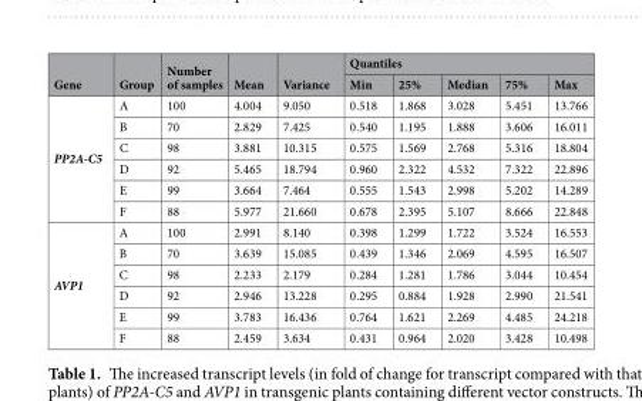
<table><thead><tr><td rowspan="2">Gene</td><td rowspan="2">Group</td><td rowspan="2">Number of samples</td><td rowspan="2">Mean</td><td rowspan="2">Variance</td><td colspan="5">Quantiles</td></tr><tr><td>Min</td><td>25%</td><td>Median</td><td>75%</td><td>Max</td></tr></thead><tbody><tr><td rowspan="6">PP2A-C5</td><td>A</td><td>100</td><td>4.004</td><td>9.050</td><td>0.518</td><td>1.868</td><td>3.028</td><td>5.451</td><td>13.766</td></tr><tr><td>B</td><td>70</td><td>2.829</td><td>7.425</td><td>0.540</td><td>1.195</td><td>1.888</td><td>3.606</td><td>16.011</td></tr><tr><td>C</td><td>98</td><td>3.881</td><td>10.315</td><td>0.575</td><td>1.569</td><td>2.768</td><td>5.316</td><td>18.804</td></tr><tr><td>D</td><td>92</td><td>5.465</td><td>18.794</td><td>0.960</td><td>2.322</td><td>4.532</td><td>7.322</td><td>22.896</td></tr><tr><td>E</td><td>99</td><td>3.664</td><td>7.464</td><td>0.555</td><td>1.543</td><td>2.998</td><td>5.202</td><td>14.289</td></tr><tr><td>F</td><td>88</td><td>5.977</td><td>21.660</td><td>0.678</td><td>2.395</td><td>5.107</td><td>8.666</td><td>22.848</td></tr><tr><td rowspan="6">AVP1</td><td>A</td><td>100</td><td>2.991</td><td>8.140</td><td>0.398</td><td>1.299</td><td>1.722</td><td>3.524</td><td>16.553</td></tr><tr><td>B</td><td>70</td><td>3.639</td><td>15.085</td><td>0.439</td><td>1.346</td><td>2.069</td><td>4.595</td><td>16.507</td></tr><tr><td>C</td><td>98</td><td>2.233</td><td>2.179</td><td>0.284</td><td>1.281</td><td>1.786</td><td>3.044</td><td>10.454</td></tr><tr><td>D</td><td>92</td><td>2.946</td><td>13.228</td><td>0.295</td><td>0.884</td><td>1.928</td><td>2.990</td><td>21.541</td></tr><tr><td>E</td><td>99</td><td>3.783</td><td>16.436</td><td>0.764</td><td>1.621</td><td>2.269</td><td>4.485</td><td>24.218</td></tr><tr><td>F</td><td>88</td><td>2.459</td><td>3.634</td><td>0.431</td><td>0.964</td><td>2.020</td><td>3.428</td><td>10.498</td></tr></tbody></table>